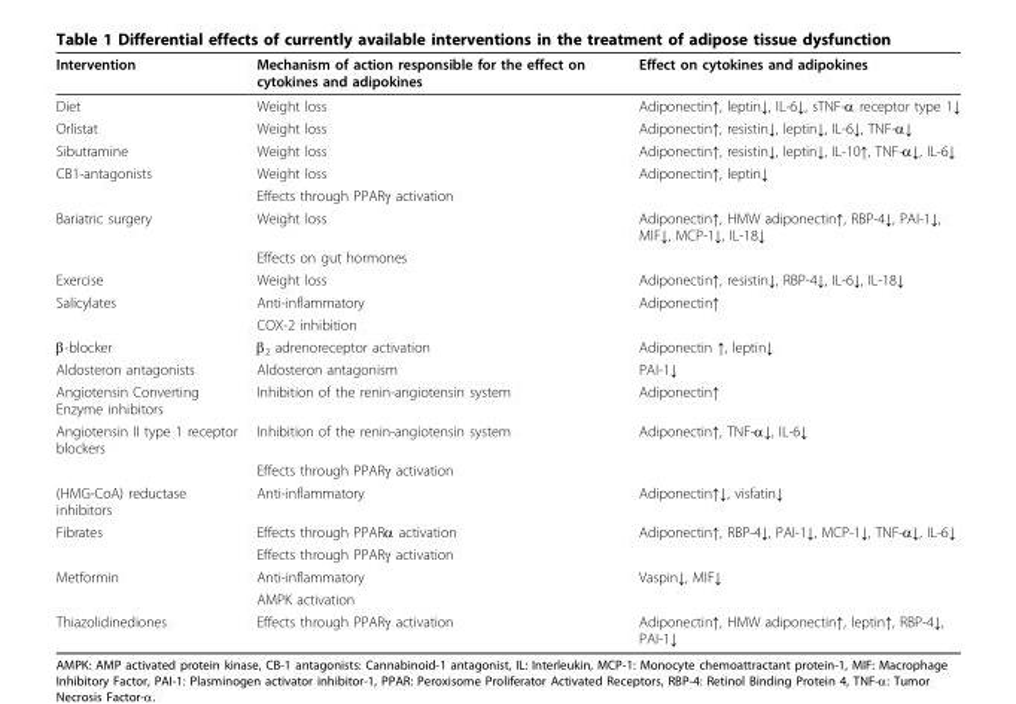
<table><tbody><tr><td>Intervention</td><td>Mechanism of action responsible for the effect on cytokines and adipokines</td><td>Effect on cytokines and adipokines</td></tr><tr><td>Diet</td><td>Weight loss</td><td>Adiponectin↑, leptin↓, IL-6↓, sTNF-α receptor type 1↓</td></tr><tr><td>Orlistat</td><td>Weight loss</td><td>Adiponectin↑, resistin↓, leptin↓, IL-6↓, TNF-α↓</td></tr><tr><td>Sibutramine</td><td>Weight loss</td><td>Adiponectin↑, resistin↓, leptin↓, IL-10↑, TNF-α↓, IL-6↓</td></tr><tr><td rowspan="2">CB1-antagonists</td><td>Weight loss</td><td>Adiponectin↑, leptin↓</td></tr><tr><td>Effects through PPARγ activation</td><td></td></tr><tr><td rowspan="2">Bariatric surgery</td><td>Weight loss</td><td>Adiponectin↑, HMW adiponectin↑, RBP-4↓, PAI-1↓, MIF↓, MCP-1↓, IL-18↓</td></tr><tr><td>Effects on gut hormones</td><td></td></tr><tr><td>Exercise</td><td>Weight loss</td><td>Adiponectin↑, resistin↓, RBP-4↓, IL-6↓, IL-18↓</td></tr><tr><td rowspan="2">Salicylates</td><td>Anti-inflammatory</td><td>Adiponectin↑</td></tr><tr><td>COX-2 inhibition</td><td></td></tr><tr><td>β-blocker</td><td>β<sub>2</sub> adrenoreceptor activation</td><td>Adiponectin ↑, leptin↓</td></tr><tr><td>Aldosteron antagonists</td><td>Aldosteron antagonism</td><td>PAI-1↓</td></tr><tr><td>Angiotensin Converting Enzyme inhibitors</td><td>Inhibition of the renin-angiotensin system</td><td>Adiponectin↑</td></tr><tr><td rowspan="2">Angiotensin II type 1 receptor blockers</td><td>Inhibition of the renin-angiotensin system</td><td>Adiponectin↑, TNF-α↓, IL-6↓</td></tr><tr><td>Effects through PPARγ activation</td><td></td></tr><tr><td>(HMG-CoA) reductase inhibitors</td><td>Anti-inflammatory</td><td>Adiponectin↑↓, visfatin↓</td></tr><tr><td rowspan="2">Fibrates</td><td>Effects through PPARα activation</td><td>Adiponectin↑, RBP-4↓, PAI-1↓, MCP-1↓, TNF-α↓, IL-6↓</td></tr><tr><td>Effects through PPARγ activation</td><td></td></tr><tr><td rowspan="2">Metformin</td><td>Anti-inflammatory</td><td>Vaspin↓, MIF↓</td></tr><tr><td>AMPK activation</td><td></td></tr><tr><td>Thiazolidinediones</td><td>Effects through PPARγ activation</td><td>Adiponectin↑, HMW adiponectin↑, leptin↑, RBP-4↓, PAI-1↓</td></tr></tbody></table>